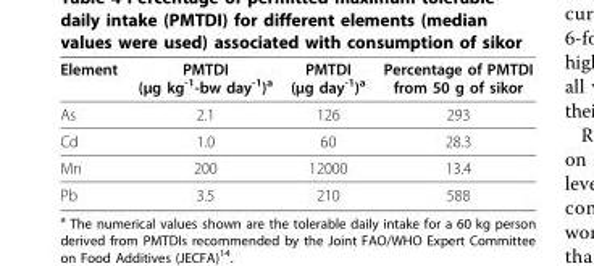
<table><thead><tr><td>Element</td><td>PMTDI (μg kg<sup>-1</sup>-bw day<sup>-1</sup>)<sup>a</sup></td><td>PMTDI (μg day<sup>-1</sup>)<sup>a</sup></td><td>Percentage of PMTDI from 50 g of sikor</td></tr></thead><tbody><tr><td>As</td><td>2.1</td><td>126</td><td>293</td></tr><tr><td>Cd</td><td>1.0</td><td>60</td><td>28.3</td></tr><tr><td>Mn</td><td>200</td><td>12000</td><td>13.4</td></tr><tr><td>Pb</td><td>3.5</td><td>210</td><td>588</td></tr></tbody></table>